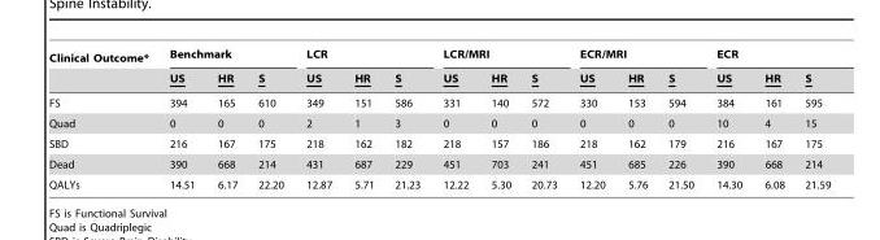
<table><thead><tr><td rowspan="2">Clinical Outcome*</td><td colspan="3">Benchmark</td><td colspan="3">LCR</td><td colspan="3">LCR/MRI</td><td colspan="3">ECR/MRI</td><td colspan="3">ECR</td></tr><tr><td>US</td><td>HR</td><td>S</td><td>US</td><td>HR</td><td>S</td><td>US</td><td>HR</td><td>S</td><td>US</td><td>HR</td><td>S</td><td>US</td><td>HR</td><td>S</td></tr></thead><tbody><tr><td>FS</td><td>394</td><td>165</td><td>610</td><td>349</td><td>151</td><td>586</td><td>331</td><td>140</td><td>572</td><td>330</td><td>153</td><td>594</td><td>384</td><td>161</td><td>595</td></tr><tr><td>Quad</td><td>0</td><td>0</td><td>0</td><td>2</td><td>1</td><td>3</td><td>0</td><td>0</td><td>0</td><td>0</td><td>0</td><td>0</td><td>10</td><td>4</td><td>15</td></tr><tr><td>SBD</td><td>216</td><td>167</td><td>175</td><td>218</td><td>162</td><td>182</td><td>218</td><td>157</td><td>186</td><td>218</td><td>162</td><td>179</td><td>216</td><td>167</td><td>175</td></tr><tr><td>Dead</td><td>390</td><td>668</td><td>214</td><td>431</td><td>687</td><td>229</td><td>451</td><td>703</td><td>241</td><td>451</td><td>685</td><td>226</td><td>390</td><td>668</td><td>214</td></tr><tr><td>QALYs</td><td>14.51</td><td>6.17</td><td>22.20</td><td>12.87</td><td>5.71</td><td>21.23</td><td>12.22</td><td>5.30</td><td>20.73</td><td>12.20</td><td>5.76</td><td>21.50</td><td>14.30</td><td>6.08</td><td>21.59</td></tr></tbody></table>